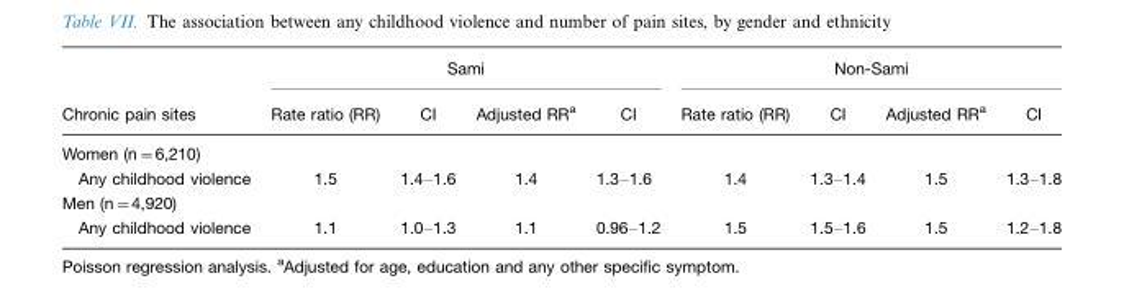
<table><thead><tr><td rowspan="2">Chronic pain sites</td><td colspan="4">Sami</td><td colspan="4">Non-Sami</td></tr><tr><td>Rate ratio (RR)</td><td>CI</td><td>Adjusted RR<sup>a</sup></td><td>CI</td><td>Rate ratio (RR)</td><td>CI</td><td>Adjusted RR<sup>a</sup></td><td>CI</td></tr></thead><tbody><tr><td colspan="9">Women (n=6,210)</td></tr><tr><td>Any childhood violence</td><td>1.5</td><td>1.4–1.6</td><td>1.4</td><td>1.3–1.6</td><td>1.4</td><td>1.3–1.4</td><td>1.5</td><td>1.3–1.8</td></tr><tr><td colspan="9">Men (n=4,920)</td></tr><tr><td>Any childhood violence</td><td>1.1</td><td>1.0–1.3</td><td>1.1</td><td>0.96–1.2</td><td>1.5</td><td>1.5–1.6</td><td>1.5</td><td>1.2–1.8</td></tr></tbody></table>